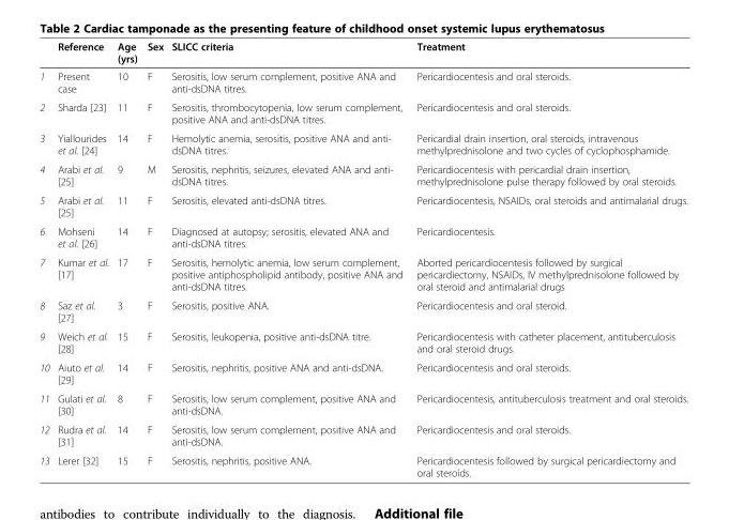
<table><thead><tr><td></td><td>Reference</td><td>Age (yrs)</td><td>Sex</td><td>SLICC criteria</td><td>Treatment</td></tr></thead><tbody><tr><td>1</td><td>Present case</td><td>10</td><td>F</td><td>Serositis, low serum complement, positive ANA and anti-dsDNA titres.</td><td>Pericardiocentesis and oral steroids.</td></tr><tr><td>2</td><td>Sharda [23]</td><td>11</td><td>F</td><td>Serositis, thrombocytopenia, low serum complement, positive ANA and anti-dsDNA titres.</td><td>Pericardiocentesis and oral steroids.</td></tr><tr><td>3</td><td>Yiallourides et al. [24]</td><td>14</td><td>F</td><td>Hemolytic anemia, serositis, positive ANA and anti- dsDNA titres.</td><td>Pericardial drain insertion, oral steroids, intravenous methylprednisolone and two cycles of cyclophosphamide.</td></tr><tr><td>4</td><td>Arabi et al. [25]</td><td>9</td><td>M</td><td>Serositis, nephritis, seizures, elevated ANA and anti- dsDNA titres.</td><td>Pericardiocentesis with pericardial drain insertion, methylprednisolone pulse therapy followed by oral steroids.</td></tr><tr><td>5</td><td>Arabi et al. [25]</td><td>11</td><td>F</td><td>Serositis, elevated anti-dsDNA titres.</td><td>Pericardiocentesis, NSAIDs, oral steroids and antimalarial drugs.</td></tr><tr><td>6</td><td>Mohseni et al. [26]</td><td>14</td><td>F</td><td>Diagnosed at autopsy; serositis, elevated ANA and anti-dsDNA titres.</td><td>Pericardiocentesis.</td></tr><tr><td>7</td><td>Kumar et al. [17]</td><td>17</td><td>F</td><td>Serositis, hemolytic anemia, low serum complement, positive antiphospholipid antibody, positive ANA and anti-dsDNA titres.</td><td>Aborted pericardiocentesis followed by surgical pericardiectomy, NSAIDs, IV methylprednisolone followed by oral steroid and antimalarial drugs</td></tr><tr><td>8</td><td>Saz et al. [27]</td><td>3</td><td>F</td><td>Serositis, positive ANA.</td><td>Pericardiocentesis and oral steroid.</td></tr><tr><td>9</td><td>Weich et al. [28]</td><td>15</td><td>F</td><td>Serositis, leukopenia, positive anti-dsDNA titre.</td><td>Pericardiocentesis with catheter placement, antituberculosis and oral steroid drugs.</td></tr><tr><td>10</td><td>Aiuto et al. [29]</td><td>14</td><td>F</td><td>Serositis, nephritis, positive ANA and anti-dsDNA.</td><td>Pericardiocentesis and oral steroids.</td></tr><tr><td>11</td><td>Gulati et al. [30]</td><td>8</td><td>F</td><td>Serositis, low serum complement, positive ANA and anti-dsDNA.</td><td>Pericardiocentesis, antituberculosis treatment and oral steroids.</td></tr><tr><td>12</td><td>Rudra et al. [31]</td><td>14</td><td>F</td><td>Serositis, low serum complement, positive ANA and anti-dsDNA.</td><td>Pericardiocentesis and oral steroids.</td></tr><tr><td>13</td><td>Lerer [32]</td><td>15</td><td>F</td><td>Serositis, nephritis, positive ANA.</td><td>Pericardiocentesis followed by surgical pericardiectomy and oral steroids.</td></tr></tbody></table>